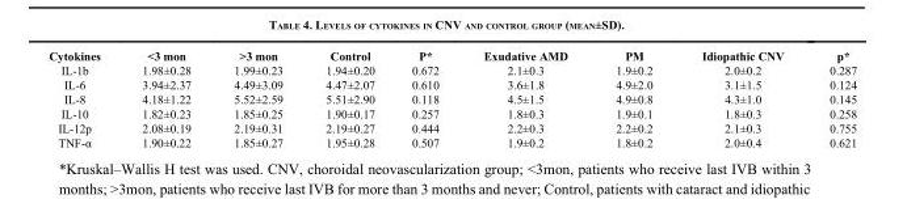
<table><thead><tr><td>Cytokines</td><td>&lt;3 mon</td><td>&gt;3 mon</td><td>Control</td><td>P*</td><td>Exudative AMD</td><td>PM</td><td>Idiopathic CNV</td><td>p*</td></tr></thead><tbody><tr><td>IL-1b</td><td>1.98±0.28</td><td>1.99±0.23</td><td>1.94±0.20</td><td>0.672</td><td>2.1±0.3</td><td>1.9±0.2</td><td>2.0±0.2</td><td>0.287</td></tr><tr><td>IL-6</td><td>3.94±2.37</td><td>4.49±3.09</td><td>4.47±2.07</td><td>0.610</td><td>3.6±1.8</td><td>4.9±2.0</td><td>3.1±1.5</td><td>0.124</td></tr><tr><td>IL-8</td><td>4.18±1.22</td><td>5.52±2.59</td><td>5.51±2.90</td><td>0.118</td><td>4.5±1.5</td><td>4.9±0.8</td><td>4.3±1.0</td><td>0.145</td></tr><tr><td>IL-10</td><td>1.82±0.23</td><td>1.85±0.25</td><td>1.90±0.17</td><td>0.257</td><td>1.8±0.3</td><td>1.9±0.1</td><td>1.8±0.3</td><td>0.258</td></tr><tr><td>IL-12p</td><td>2.08±0.19</td><td>2.19±0.31</td><td>2.19±0.27</td><td>0.444</td><td>2.2±0.3</td><td>2.2±0.2</td><td>2.1±0.3</td><td>0.755</td></tr><tr><td>TNF-α</td><td>1.90±0.22</td><td>1.85±0.27</td><td>1.95±0.28</td><td>0.507</td><td>1.9±0.2</td><td>1.8±0.2</td><td>2.0±0.4</td><td>0.621</td></tr></tbody></table>